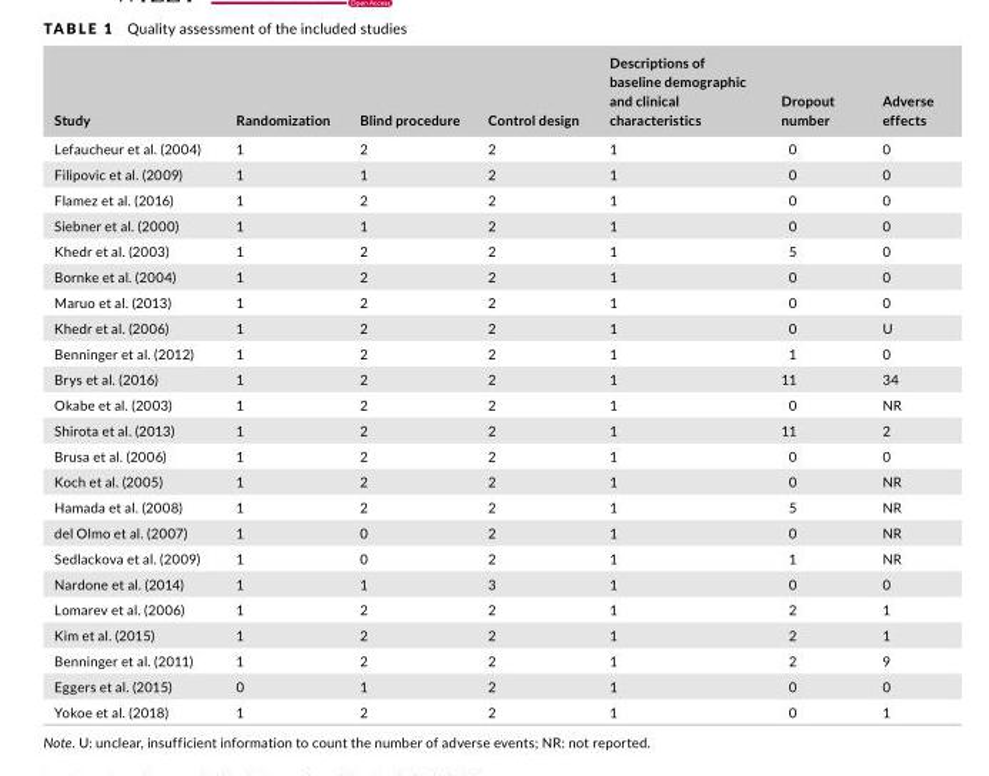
<table><thead><tr><td>Study</td><td>Randomization</td><td>Blind procedure</td><td>Control design</td><td>Descriptions of baseline demographic and clinical characteristics</td><td>Dropout number</td><td>Adverse effects</td></tr></thead><tbody><tr><td>Lefaucheur et al. (2004)</td><td>1</td><td>2</td><td>2</td><td>1</td><td>0</td><td>0</td></tr><tr><td>Filipovic et al. (2009)</td><td>1</td><td>1</td><td>2</td><td>1</td><td>0</td><td>0</td></tr><tr><td>Flamez et al. (2016)</td><td>1</td><td>2</td><td>2</td><td>1</td><td>0</td><td>0</td></tr><tr><td>Siebner et al. (2000)</td><td>1</td><td>1</td><td>2</td><td>1</td><td>0</td><td>0</td></tr><tr><td>Khedr et al. (2003)</td><td>1</td><td>2</td><td>2</td><td>1</td><td>5</td><td>0</td></tr><tr><td>Bornke et al. (2004)</td><td>1</td><td>2</td><td>2</td><td>1</td><td>0</td><td>0</td></tr><tr><td>Maruo et al. (2013)</td><td>1</td><td>2</td><td>2</td><td>1</td><td>0</td><td>0</td></tr><tr><td>Khedr et al. (2006)</td><td>1</td><td>2</td><td>2</td><td>1</td><td>0</td><td>U</td></tr><tr><td>Benninger et al. (2012)</td><td>1</td><td>2</td><td>2</td><td>1</td><td>1</td><td>0</td></tr><tr><td>Brys et al. (2016)</td><td>1</td><td>2</td><td>2</td><td>1</td><td>11</td><td>34</td></tr><tr><td>Okabe et al. (2003)</td><td>1</td><td>2</td><td>2</td><td>1</td><td>0</td><td>NR</td></tr><tr><td>Shirota et al. (2013)</td><td>1</td><td>2</td><td>2</td><td>1</td><td>11</td><td>2</td></tr><tr><td>Brusa et al. (2006)</td><td>1</td><td>2</td><td>2</td><td>1</td><td>0</td><td>0</td></tr><tr><td>Koch et al. (2005)</td><td>1</td><td>2</td><td>2</td><td>1</td><td>0</td><td>NR</td></tr><tr><td>Hamada et al. (2008)</td><td>1</td><td>2</td><td>2</td><td>1</td><td>5</td><td>NR</td></tr><tr><td>del Olmo et al. (2007)</td><td>1</td><td>0</td><td>2</td><td>1</td><td>0</td><td>NR</td></tr><tr><td>Sedlackova et al. (2009)</td><td>1</td><td>0</td><td>2</td><td>1</td><td>1</td><td>NR</td></tr><tr><td>Nardone et al. (2014)</td><td>1</td><td>1</td><td>3</td><td>1</td><td>0</td><td>0</td></tr><tr><td>Lomarev et al. (2006)</td><td>1</td><td>2</td><td>2</td><td>1</td><td>2</td><td>1</td></tr><tr><td>Kim et al. (2015)</td><td>1</td><td>2</td><td>2</td><td>1</td><td>2</td><td>1</td></tr><tr><td>Benninger et al. (2011)</td><td>1</td><td>2</td><td>2</td><td>1</td><td>2</td><td>9</td></tr><tr><td>Eggers et al. (2015)</td><td>0</td><td>1</td><td>2</td><td>1</td><td>0</td><td>0</td></tr><tr><td>Yokoe et al. (2018)</td><td>1</td><td>2</td><td>2</td><td>1</td><td>0</td><td>1</td></tr></tbody></table>